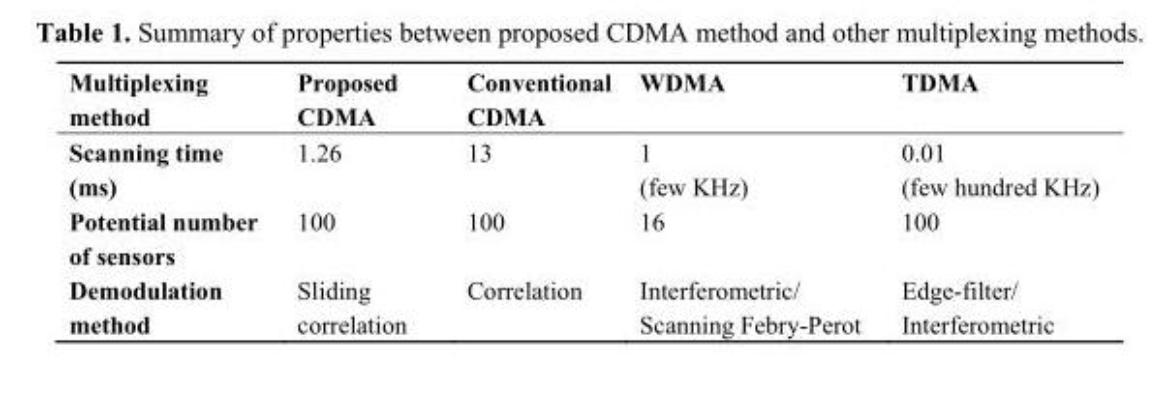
<table><thead><tr><td>Multiplexing method</td><td>Proposed CDMA</td><td>Conventional CDMA</td><td>WDMA</td><td>TDMA</td></tr></thead><tbody><tr><td>Scanning time (ms)</td><td>1.26</td><td>13</td><td>1 (few KHz)</td><td>0.01 (few hundred KHz)</td></tr><tr><td>Potential number of sensors</td><td>100</td><td>100</td><td>16</td><td>100</td></tr><tr><td>Demodulation method</td><td>Sliding correlation</td><td>Correlation</td><td>Interferometric/ Scanning Febry-Perot</td><td>Edge-filter/ Interferometric</td></tr></tbody></table>